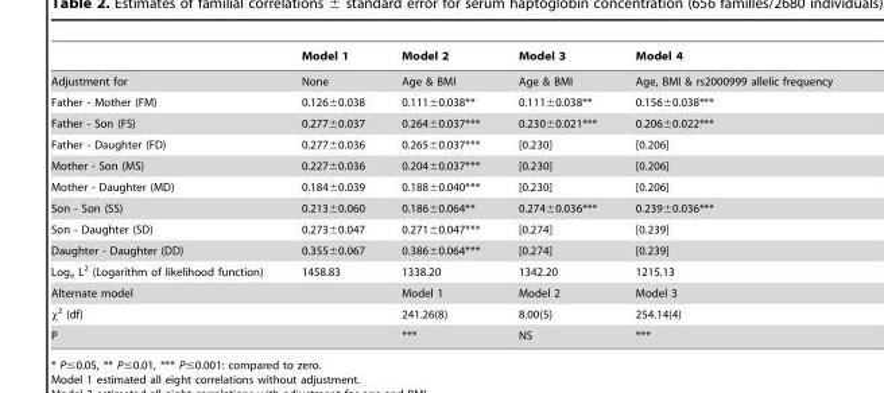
<table><thead><tr><td></td><td>Model 1</td><td>Model 2</td><td>Model 3</td><td>Model 4</td></tr></thead><tbody><tr><td>Adjustment for</td><td>None</td><td>Age &amp; BMI</td><td>Age &amp; BMI</td><td>Age, BMI &amp; rs2000999 allelic frequency</td></tr><tr><td>Father - Mother (FM)</td><td>0.126±0.038</td><td>0.111±0.038**</td><td>0.111±0.038**</td><td>0.156±0.038***</td></tr><tr><td>Father - Son (FS)</td><td>0.277±0.037</td><td>0.264±0.037***</td><td>0.230±0.021***</td><td>0.206±0.022***</td></tr><tr><td>Father - Daughter (FD)</td><td>0.277±0.036</td><td>0.265±0.037***</td><td>[0.230]</td><td>[0.206]</td></tr><tr><td>Mother - Son (MS)</td><td>0.227±0.036</td><td>0.204±0.037***</td><td>[0.230]</td><td>[0.206]</td></tr><tr><td>Mother - Daughter (MD)</td><td>0.184±0.039</td><td>0.188±0.040***</td><td>[0.230]</td><td>[0.206]</td></tr><tr><td>Son - Son (SS)</td><td>0.213±0.060</td><td>0.186±0.064**</td><td>0.274±0.036***</td><td>0.239±0.036***</td></tr><tr><td>Son - Daughter (SD)</td><td>0.273±0.047</td><td>0.271±0.047***</td><td>[0.274]</td><td>[0.239]</td></tr><tr><td>Daughter - Daughter (DD)</td><td>0.355±0.067</td><td>0.386±0.064***</td><td>[0.274]</td><td>[0.239]</td></tr><tr><td>Log<sub>e</sub> L<sup>2</sup> (Logarithm of likelihood function)</td><td>1458.83</td><td>1338.20</td><td>1342.20</td><td>1215.13</td></tr><tr><td>Alternate model</td><td></td><td>Model 1</td><td>Model 2</td><td>Model 3</td></tr><tr><td>χ<sup>2</sup> (df)</td><td></td><td>241.26(8)</td><td>8.00(5)</td><td>254.14(4)</td></tr><tr><td>P</td><td></td><td>***</td><td>NS</td><td>***</td></tr></tbody></table>